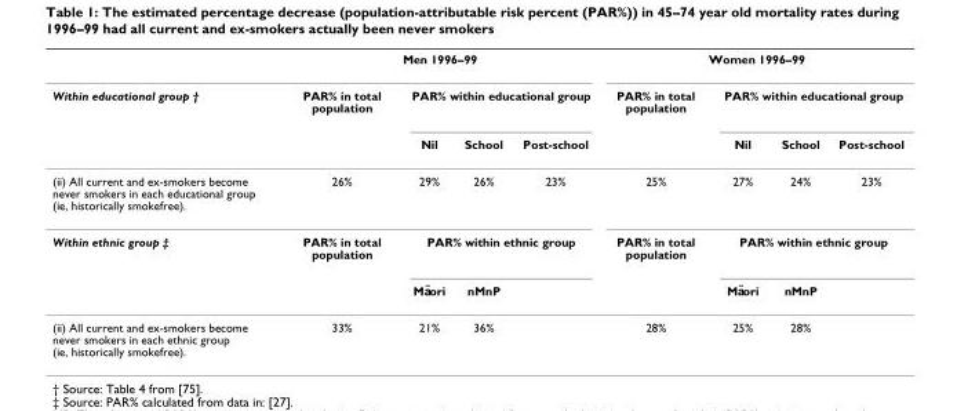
<table><thead><tr><td rowspan="3">Within educational group †</td><td colspan="4">Men 1996–99</td><td colspan="4">Women 1996–99</td></tr><tr><td rowspan="2">PAR% in total population</td><td colspan="3">PAR% within educational group</td><td rowspan="2">PAR% in total population</td><td colspan="3">PAR% within educational group</td></tr><tr><td>Nil</td><td>School</td><td>Post-school</td><td>Nil</td><td>School</td><td>Post-school</td></tr></thead><tbody><tr><td>(ii) All current and ex-smokers become never smokers in each educational group (ie, historically smokefree).</td><td>26%</td><td>29%</td><td>26%</td><td>23%</td><td>25%</td><td>27%</td><td>24%</td><td>23%</td></tr><tr><td rowspan="2">Within ethnic group ‡</td><td>PAR% in total population</td><td colspan="3">PAR% within ethnic group</td><td>PAR% in total population</td><td colspan="3">PAR% within ethnic group</td></tr><tr><td></td><td>Ma¯ori</td><td>nMnP</td><td></td><td></td><td>Ma¯ori</td><td>nMnP</td><td></td></tr><tr><td>(ii) All current and ex-smokers become never smokers in each ethnic group (ie, historically smokefree).</td><td>33%</td><td>21%</td><td>36%</td><td></td><td>28%</td><td>25%</td><td>28%</td><td></td></tr></tbody></table>